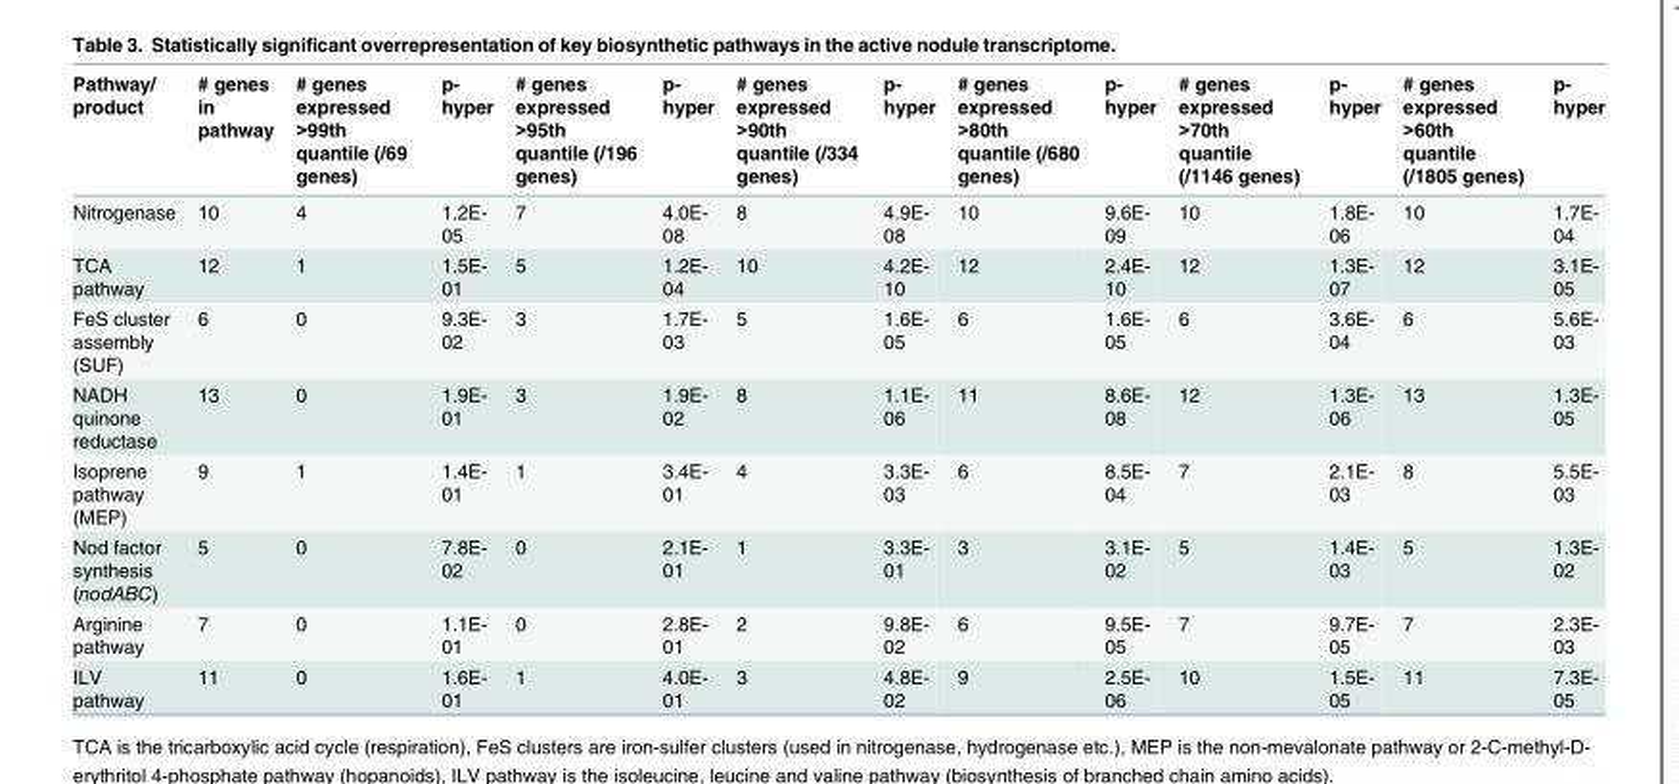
<table><thead><tr><td>Pathway/ product</td><td># genes in pathway</td><td># genes expressed &gt;99th quantile (/69 genes)</td><td>p- hyper</td><td># genes expressed &gt;95th quantile (/196 genes)</td><td>p- hyper</td><td># genes expressed &gt;90th quantile (/334 genes)</td><td>p- hyper</td><td># genes expressed &gt;80th quantile (/680 genes)</td><td>p- hyper</td><td># genes expressed &gt;70th quantile (/1146 genes)</td><td>p- hyper</td><td># genes expressed &gt;60th quantile (/1805 genes)</td><td>p- hyper</td></tr></thead><tbody><tr><td>Nitrogenase</td><td>10</td><td>4</td><td>1.2E- 05</td><td>7</td><td>4.0E- 08</td><td>8</td><td>4.9E- 08</td><td>10</td><td>9.6E- 09</td><td>10</td><td>1.8E- 06</td><td>10</td><td>1.7E- 04</td></tr><tr><td>TCA pathway</td><td>12</td><td>1</td><td>1.5E- 01</td><td>5</td><td>1.2E- 04</td><td>10</td><td>4.2E- 10</td><td>12</td><td>2.4E- 10</td><td>12</td><td>1.3E- 07</td><td>12</td><td>3.1E- 05</td></tr><tr><td>FeS cluster assembly (SUF)</td><td>6</td><td>0</td><td>9.3E- 02</td><td>3</td><td>1.7E- 03</td><td>5</td><td>1.6E- 05</td><td>6</td><td>1.6E- 05</td><td>6</td><td>3.6E- 04</td><td>6</td><td>5.6E- 03</td></tr><tr><td>NADH quinone reductase</td><td>13</td><td>0</td><td>1.9E- 01</td><td>3</td><td>1.9E- 02</td><td>8</td><td>1.1E- 06</td><td>11</td><td>8.6E- 08</td><td>12</td><td>1.3E- 06</td><td>13</td><td>1.3E- 05</td></tr><tr><td>Isoprene pathway (MEP)</td><td>9</td><td>1</td><td>1.4E- 01</td><td>1</td><td>3.4E- 01</td><td>4</td><td>3.3E- 03</td><td>6</td><td>8.5E- 04</td><td>7</td><td>2.1E- 03</td><td>8</td><td>5.5E- 03</td></tr><tr><td>Nod factor synthesis (nodABC)</td><td>5</td><td>0</td><td>7.8E- 02</td><td>0</td><td>2.1E- 01</td><td>1</td><td>3.3E- 01</td><td>3</td><td>3.1E- 02</td><td>5</td><td>1.4E- 03</td><td>5</td><td>1.3E- 02</td></tr><tr><td>Arginine pathway</td><td>7</td><td>0</td><td>1.1E- 01</td><td>0</td><td>2.8E- 01</td><td>2</td><td>9.8E- 02</td><td>6</td><td>9.5E- 05</td><td>7</td><td>9.7E- 05</td><td>7</td><td>2.3E- 03</td></tr><tr><td>ILV pathway</td><td>11</td><td>0</td><td>1.6E- 01</td><td>1</td><td>4.0E- 01</td><td>3</td><td>4.8E- 02</td><td>9</td><td>2.5E- 06</td><td>10</td><td>1.5E- 05</td><td>11</td><td>7.3E- 05</td></tr></tbody></table>